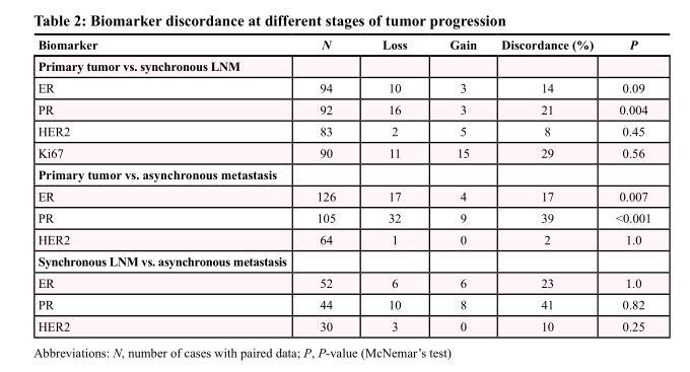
<table><thead><tr><td>Biomarker</td><td>N</td><td>Loss</td><td>Gain</td><td>Discordance (%)</td><td>P</td></tr></thead><tbody><tr><td colspan="6">Primary tumor vs. synchronous LNM</td></tr><tr><td>ER</td><td>94</td><td>10</td><td>3</td><td>14</td><td>0.09</td></tr><tr><td>PR</td><td>92</td><td>16</td><td>3</td><td>21</td><td>0.004</td></tr><tr><td>HER2</td><td>83</td><td>2</td><td>5</td><td>8</td><td>0.45</td></tr><tr><td>Ki67</td><td>90</td><td>11</td><td>15</td><td>29</td><td>0.56</td></tr><tr><td colspan="6">Primary tumor vs. asynchronous metastasis</td></tr><tr><td>ER</td><td>126</td><td>17</td><td>4</td><td>17</td><td>0.007</td></tr><tr><td>PR</td><td>105</td><td>32</td><td>9</td><td>39</td><td>&lt;0.001</td></tr><tr><td>HER2</td><td>64</td><td>1</td><td>0</td><td>2</td><td>1.0</td></tr><tr><td colspan="6">Synchronous LNM vs. asynchronous metastasis</td></tr><tr><td>ER</td><td>52</td><td>6</td><td>6</td><td>23</td><td>1.0</td></tr><tr><td>PR</td><td>44</td><td>10</td><td>8</td><td>41</td><td>0.82</td></tr><tr><td>HER2</td><td>30</td><td>3</td><td>0</td><td>10</td><td>0.25</td></tr></tbody></table>